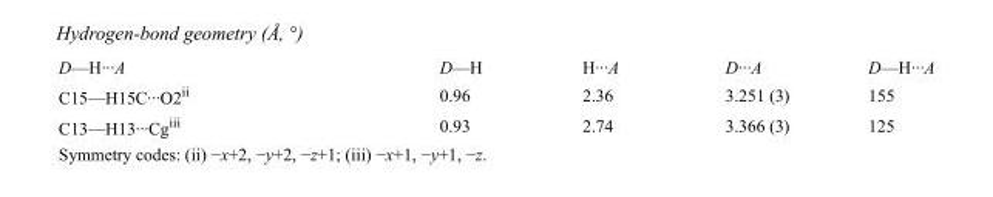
<table><tbody><tr><td>D—H···A</td><td>D—H</td><td>H···A</td><td>D···A</td><td>D—H···A</td></tr><tr><td>C15—H15C···O2<sup>ii</sup></td><td>0.96</td><td>2.36</td><td>3.251 (3)</td><td>155</td></tr><tr><td>C13—H13···Cg<sup>iii</sup></td><td>0.93</td><td>2.74</td><td>3.366 (3)</td><td>125</td></tr></tbody></table>